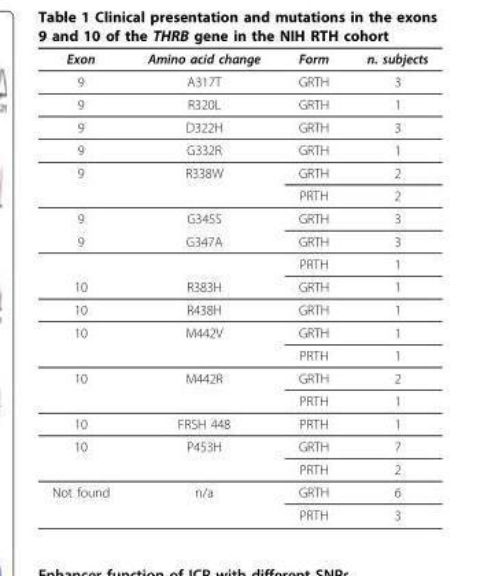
<table><thead><tr><td>Exon</td><td>Amino acid change</td><td>Form</td><td>n. subjects</td></tr></thead><tbody><tr><td>9</td><td>A317T</td><td>GRTH</td><td>3</td></tr><tr><td>9</td><td>R320L</td><td>GRTH</td><td>1</td></tr><tr><td>9</td><td>D322H</td><td>GRTH</td><td>3</td></tr><tr><td>9</td><td>G332R</td><td>GRTH</td><td>1</td></tr><tr><td rowspan="2">9</td><td>R338W</td><td>GRTH</td><td>2</td></tr><tr><td></td><td>PRTH</td><td>2</td></tr><tr><td>9</td><td>G345S</td><td>GRTH</td><td>3</td></tr><tr><td rowspan="2">9</td><td>G347A</td><td>GRTH</td><td>3</td></tr><tr><td></td><td>PRTH</td><td>1</td></tr><tr><td>10</td><td>R383H</td><td>GRTH</td><td>1</td></tr><tr><td>10</td><td>R438H</td><td>GRTH</td><td>1</td></tr><tr><td rowspan="2">10</td><td>M442V</td><td>GRTH</td><td>1</td></tr><tr><td></td><td>PRTH</td><td>1</td></tr><tr><td rowspan="2">10</td><td>M442R</td><td>GRTH</td><td>2</td></tr><tr><td></td><td>PRTH</td><td>1</td></tr><tr><td>10</td><td>FRSH 448</td><td>PRTH</td><td>1</td></tr><tr><td rowspan="2">10</td><td>P453H</td><td>GRTH</td><td>7</td></tr><tr><td></td><td>PRTH</td><td>2</td></tr><tr><td rowspan="2">Not found</td><td>n/a</td><td>GRTH</td><td>6</td></tr><tr><td></td><td>PRTH</td><td>3</td></tr></tbody></table>